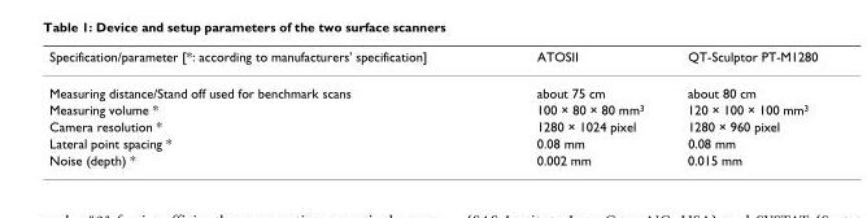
<table><thead><tr><td>Specification/parameter [*: according to manufacturers&#x27; specification]</td><td>ATOSII</td><td>QT-Sculptor PT-M1280</td></tr></thead><tbody><tr><td>Measuring distance/Stand off used for benchmark scans</td><td>about 75 cm</td><td>about 80 cm</td></tr><tr><td>Measuring volume *</td><td>100 × 80 × 80 mm3</td><td>120 × 100 × 100 mm3</td></tr><tr><td>Camera resolution *</td><td>1280 × 1024 pixel</td><td>1280 × 960 pixel</td></tr><tr><td>Lateral point spacing *</td><td>0.08 mm</td><td>0.08 mm</td></tr><tr><td>Noise (depth) *</td><td>0.002 mm</td><td>0.015 mm</td></tr></tbody></table>